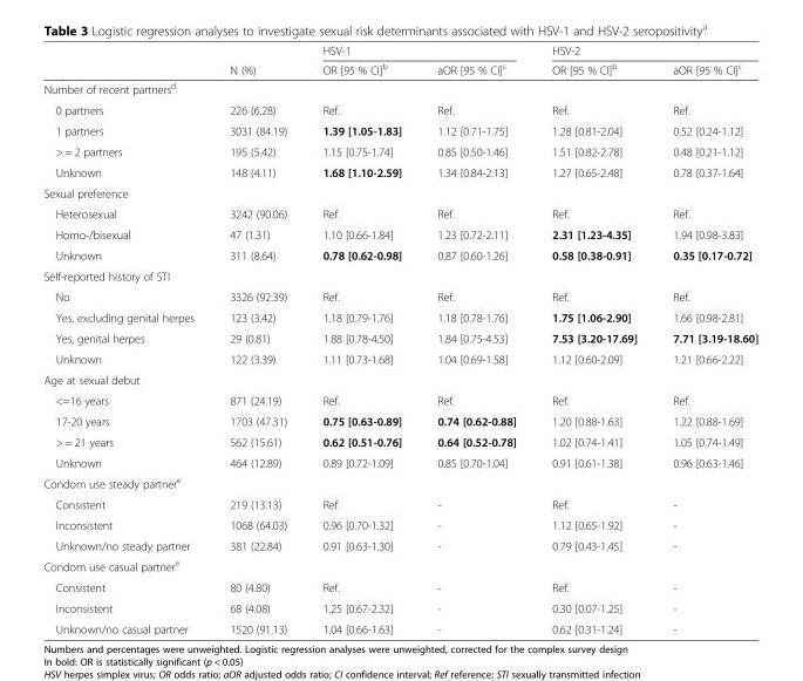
<table><thead><tr><td rowspan="2"></td><td rowspan="2">N (%)</td><td colspan="2">HSV-1</td><td colspan="2">HSV-2</td></tr><tr><td>OR [95 % CI]<sup>b</sup></td><td>aOR [95 % CI]<sup>c</sup></td><td>OR [95 % CI]<sup>b</sup></td><td>aOR [95 % CI]<sup>c</sup></td></tr></thead><tbody><tr><td colspan="6">Number of recent partners<sup>d</sup></td></tr><tr><td>0 partners</td><td>226 (6.28)</td><td>Ref.</td><td>Ref.</td><td>Ref.</td><td>Ref.</td></tr><tr><td>1 partners</td><td>3031 (84.19)</td><td>1.39 [1.05-1.83]</td><td>1.12 [0.71-1.75]</td><td>1.28 [0.81-2.04]</td><td>0.52 [0.24-1.12]</td></tr><tr><td>&gt; = 2 partners</td><td>195 (5.42)</td><td>1.15 [0.75-1.74]</td><td>0.85 [0.50-1.46]</td><td>1.51 [0.82-2.78]</td><td>0.48 [0.21-1.12]</td></tr><tr><td>Unknown</td><td>148 (4.11)</td><td>1.68 [1.10-2.59]</td><td>1.34 [0.84-2.13]</td><td>1.27 [0.65-2.48]</td><td>0.78 [0.37-1.64]</td></tr><tr><td colspan="6">Sexual preference</td></tr><tr><td>Heterosexual</td><td>3242 (90.06)</td><td>Ref.</td><td>Ref.</td><td>Ref.</td><td>Ref.</td></tr><tr><td>Homo-/bisexual</td><td>47 (1.31)</td><td>1.10 [0.66-1.84]</td><td>1.23 [0.72-2.11]</td><td>2.31 [1.23-4.35]</td><td>1.94 [0.98-3.83]</td></tr><tr><td>Unknown</td><td>311 (8.64)</td><td>0.78 [0.62-0.98]</td><td>0.87 [0.60-1.26]</td><td>0.58 [0.38-0.91]</td><td>0.35 [0.17-0.72]</td></tr><tr><td colspan="6">Self-reported history of STI</td></tr><tr><td>No</td><td>3326 (92.39)</td><td>Ref.</td><td>Ref.</td><td>Ref.</td><td>Ref.</td></tr><tr><td>Yes, excluding genital herpes</td><td>123 (3.42)</td><td>1.18 [0.79-1.76]</td><td>1.18 [0.78-1.76]</td><td>1.75 [1.06-2.90]</td><td>1.66 [0.98-2.81]</td></tr><tr><td>Yes, genital herpes</td><td>29 (0.81)</td><td>1.88 [0.78-4.50]</td><td>1.84 [0.75-4.53]</td><td>7.53 [3.20-17.69]</td><td>7.71 [3.19-18.60]</td></tr><tr><td>Unknown</td><td>122 (3.39)</td><td>1.11 [0.73-1.68]</td><td>1.04 [0.69-1.58]</td><td>1.12 [0.60-2.09]</td><td>1.21 [0.66-2.22]</td></tr><tr><td colspan="6">Age at sexual debut</td></tr><tr><td>&lt;=16 years</td><td>871 (24.19)</td><td>Ref.</td><td>Ref.</td><td>Ref.</td><td>Ref.</td></tr><tr><td>17-20 years</td><td>1703 (47.31)</td><td>0.75 [0.63-0.89]</td><td>0.74 [0.62-0.88]</td><td>1.20 [0.88-1.63]</td><td>1.22 [0.88-1.69]</td></tr><tr><td>&gt; = 21 years</td><td>562 (15.61)</td><td>0.62 [0.51-0.76]</td><td>0.64 [0.52-0.78]</td><td>1.02 [0.74-1.41]</td><td>1.05 [0.74-1.49]</td></tr><tr><td>Unknown</td><td>464 (12.89)</td><td>0.89 [0.72-1.09]</td><td>0.85 [0.70-1.04]</td><td>0.91 [0.61-1.38]</td><td>0.96 [0.63-1.46]</td></tr><tr><td colspan="6">Condom use steady partner<sup>e</sup></td></tr><tr><td>Consistent</td><td>219 (13.13)</td><td>Ref.</td><td>-</td><td>Ref.</td><td>-</td></tr><tr><td>Inconsistent</td><td>1068 (64.03)</td><td>0.96 [0.70-1.32]</td><td>-</td><td>1.12 [0.65-1.92]</td><td>-</td></tr><tr><td>Unknown/no steady partner</td><td>381 (22.84)</td><td>0.91 [0.63-1.30]</td><td>-</td><td>0.79 [0.43-1.45]</td><td>-</td></tr><tr><td colspan="6">Condom use casual partner<sup>e</sup></td></tr><tr><td>Consistent</td><td>80 (4.80)</td><td>Ref.</td><td>-</td><td>Ref.</td><td>-</td></tr><tr><td>Inconsistent</td><td>68 (4.08)</td><td>1.25 [0.67-2.32]</td><td>-</td><td>0.30 [0.07-1.25]</td><td>-</td></tr><tr><td>Unknown/no casual partner</td><td>1520 (91.13)</td><td>1.04 [0.66-1.63]</td><td>-</td><td>0.62 [0.31-1.24]</td><td>-</td></tr></tbody></table>